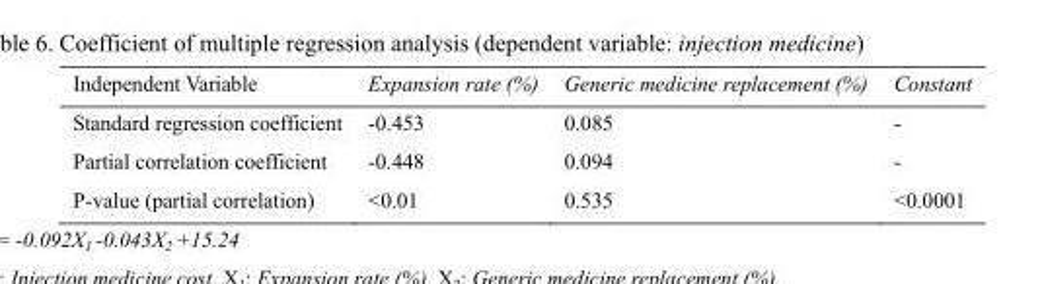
<table><thead><tr><td>Independent Variable</td><td>Expansion rate (%)</td><td>Generic medicine replacement (%)</td><td>Constant</td></tr></thead><tbody><tr><td>Standard regression coefficient</td><td>-0.453</td><td>0.085</td><td>-</td></tr><tr><td>Partial correlation coefficient</td><td>-0.448</td><td>0.094</td><td>-</td></tr><tr><td>P-value (partial correlation)</td><td>&lt;0.01</td><td>0.535</td><td>&lt;0.0001</td></tr></tbody></table>